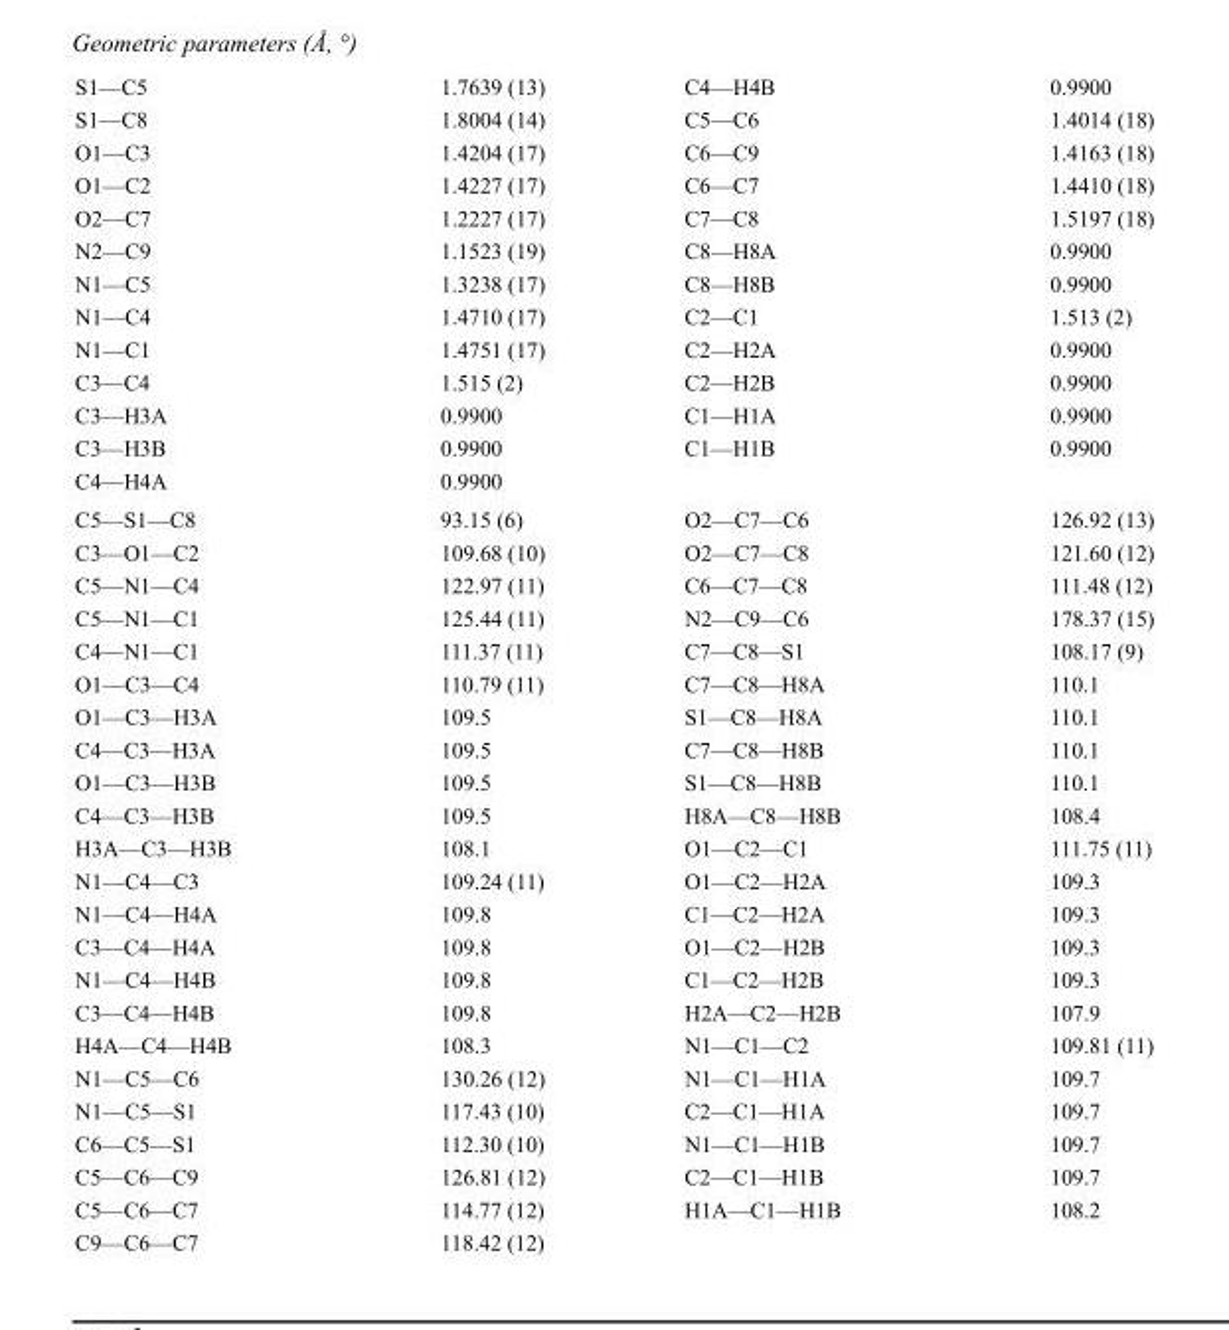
<table><tbody><tr><td>S1—C5</td><td>1.7639 (13)</td><td>C4—H4B</td><td>0.9900</td></tr><tr><td>S1—C8</td><td>1.8004 (14)</td><td>C5—C6</td><td>1.4014 (18)</td></tr><tr><td>O1—C3</td><td>1.4204 (17)</td><td>C6—C9</td><td>1.4163 (18)</td></tr><tr><td>O1—C2</td><td>1.4227 (17)</td><td>C6—C7</td><td>1.4410 (18)</td></tr><tr><td>O2—C7</td><td>1.2227 (17)</td><td>C7—C8</td><td>1.5197 (18)</td></tr><tr><td>N2—C9</td><td>1.1523 (19)</td><td>C8—H8A</td><td>0.9900</td></tr><tr><td>N1—C5</td><td>1.3238 (17)</td><td>C8—H8B</td><td>0.9900</td></tr><tr><td>N1—C4</td><td>1.4710 (17)</td><td>C2—C1</td><td>1.513 (2)</td></tr><tr><td>N1—C1</td><td>1.4751 (17)</td><td>C2—H2A</td><td>0.9900</td></tr><tr><td>C3—C4</td><td>1.515 (2)</td><td>C2—H2B</td><td>0.9900</td></tr><tr><td>C3—H3A</td><td>0.9900</td><td>C1—H1A</td><td>0.9900</td></tr><tr><td>C3—H3B</td><td>0.9900</td><td>C1—H1B</td><td>0.9900</td></tr><tr><td>C4—H4A</td><td>0.9900</td><td></td><td></td></tr><tr><td>C5—S1—C8</td><td>93.15 (6)</td><td>O2—C7—C6</td><td>126.92 (13)</td></tr><tr><td>C3—O1—C2</td><td>109.68 (10)</td><td>O2—C7—C8</td><td>121.60 (12)</td></tr><tr><td>C5—N1—C4</td><td>122.97 (11)</td><td>C6—C7—C8</td><td>111.48 (12)</td></tr><tr><td>C5—N1—C1</td><td>125.44 (11)</td><td>N2—C9—C6</td><td>178.37 (15)</td></tr><tr><td>C4—N1—C1</td><td>111.37 (11)</td><td>C7—C8—S1</td><td>108.17 (9)</td></tr><tr><td>O1—C3—C4</td><td>110.79 (11)</td><td>C7—C8—H8A</td><td>110.1</td></tr><tr><td>O1—C3—H3A</td><td>109.5</td><td>S1—C8—H8A</td><td>110.1</td></tr><tr><td>C4—C3—H3A</td><td>109.5</td><td>C7—C8—H8B</td><td>110.1</td></tr><tr><td>O1—C3—H3B</td><td>109.5</td><td>S1—C8—H8B</td><td>110.1</td></tr><tr><td>C4—C3—H3B</td><td>109.5</td><td>H8A—C8—H8B</td><td>108.4</td></tr><tr><td>H3A—C3—H3B</td><td>108.1</td><td>O1—C2—C1</td><td>111.75 (11)</td></tr><tr><td>N1—C4—C3</td><td>109.24 (11)</td><td>O1—C2—H2A</td><td>109.3</td></tr><tr><td>N1—C4—H4A</td><td>109.8</td><td>C1—C2—H2A</td><td>109.3</td></tr><tr><td>C3—C4—H4A</td><td>109.8</td><td>O1—C2—H2B</td><td>109.3</td></tr><tr><td>N1—C4—H4B</td><td>109.8</td><td>C1—C2—H2B</td><td>109.3</td></tr><tr><td>C3—C4—H4B</td><td>109.8</td><td>H2A—C2—H2B</td><td>107.9</td></tr><tr><td>H4A—C4—H4B</td><td>108.3</td><td>N1—C1—C2</td><td>109.81 (11)</td></tr><tr><td>N1—C5—C6</td><td>130.26 (12)</td><td>N1—C1—H1A</td><td>109.7</td></tr><tr><td>N1—C5—S1</td><td>117.43 (10)</td><td>C2—C1—H1A</td><td>109.7</td></tr><tr><td>C6—C5—S1</td><td>112.30 (10)</td><td>N1—C1—H1B</td><td>109.7</td></tr><tr><td>C5—C6—C9</td><td>126.81 (12)</td><td>C2—C1—H1B</td><td>109.7</td></tr><tr><td>C5—C6—C7</td><td>114.77 (12)</td><td>H1A—C1—H1B</td><td>108.2</td></tr><tr><td>C9—C6—C7</td><td>118.42 (12)</td><td></td><td></td></tr></tbody></table>